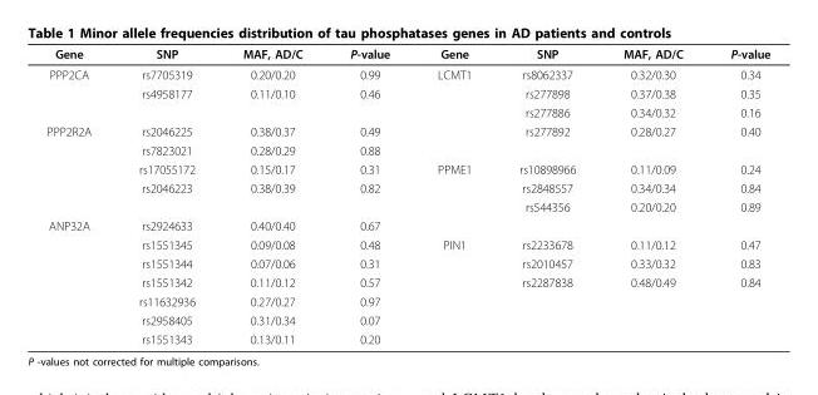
<table><thead><tr><td>Gene</td><td>SNP</td><td>MAF, AD/C</td><td>P-value</td><td>Gene</td><td>SNP</td><td>MAF, AD/C</td><td>P-value</td></tr></thead><tbody><tr><td rowspan="3">PPP2CA</td><td>rs7705319</td><td>0.20/0.20</td><td>0.99</td><td>LCMT1</td><td>rs8062337</td><td>0.32/0.30</td><td>0.34</td></tr><tr><td>rs4958177</td><td>0.11/0.10</td><td>0.46</td><td></td><td>rs277898</td><td>0.37/0.38</td><td>0.35</td></tr><tr><td></td><td></td><td></td><td></td><td>rs277886</td><td>0.34/0.32</td><td>0.16</td></tr><tr><td rowspan="5">PPP2R2A</td><td>rs2046225</td><td>0.38/0.37</td><td>0.49</td><td></td><td>rs277892</td><td>0.28/0.27</td><td>0.40</td></tr><tr><td>rs7823021</td><td>0.28/0.29</td><td>0.88</td><td></td><td></td><td></td><td></td></tr><tr><td>rs17055172</td><td>0.15/0.17</td><td>0.31</td><td>PPME1</td><td>rs10898966</td><td>0.11/0.09</td><td>0.24</td></tr><tr><td>rs2046223</td><td>0.38/0.39</td><td>0.82</td><td></td><td>rs2848557</td><td>0.34/0.34</td><td>0.84</td></tr><tr><td></td><td></td><td></td><td></td><td>rs544356</td><td>0.20/0.20</td><td>0.89</td></tr><tr><td rowspan="7">ANP32A</td><td>rs2924633</td><td>0.40/0.40</td><td>0.67</td><td></td><td></td><td></td><td></td></tr><tr><td>rs1551345</td><td>0.09/0.08</td><td>0.48</td><td>PIN1</td><td>rs2233678</td><td>0.11/0.12</td><td>0.47</td></tr><tr><td>rs1551344</td><td>0.07/0.06</td><td>0.31</td><td></td><td>rs2010457</td><td>0.33/0.32</td><td>0.83</td></tr><tr><td>rs1551342</td><td>0.11/0.12</td><td>0.57</td><td></td><td>rs2287838</td><td>0.48/0.49</td><td>0.84</td></tr><tr><td>rs11632936</td><td>0.27/0.27</td><td>0.97</td><td></td><td></td><td></td><td></td></tr><tr><td>rs2958405</td><td>0.31/0.34</td><td>0.07</td><td></td><td></td><td></td><td></td></tr><tr><td>rs1551343</td><td>0.13/0.11</td><td>0.20</td><td></td><td></td><td></td><td></td></tr></tbody></table>